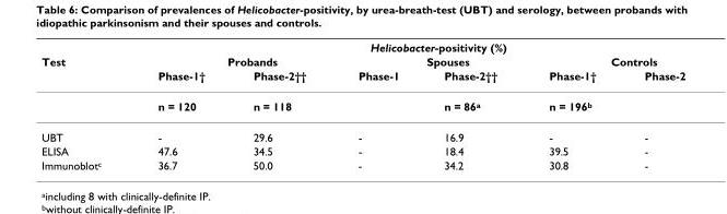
<table><thead><tr><td rowspan="3">Test</td><td colspan="6">Helicobacter-positivity (%)</td></tr><tr><td colspan="2">Probands</td><td colspan="2">Spouses</td><td colspan="2">Controls</td></tr><tr><td>Phase-1†</td><td>Phase-2††</td><td>Phase-1</td><td>Phase-2††</td><td>Phase-1†</td><td>Phase-2</td></tr></thead><tbody><tr><td></td><td>n = 120</td><td>n = 118</td><td></td><td>n = 86<sup>a</sup></td><td>n = 196<sup>b</sup></td><td></td></tr><tr><td>UBT</td><td>-</td><td>29.6</td><td>-</td><td>16.9</td><td>-</td><td>-</td></tr><tr><td>ELISA</td><td>47.6</td><td>34.5</td><td>-</td><td>18.4</td><td>39.5</td><td>-</td></tr><tr><td>Immunoblot<sup>c</sup></td><td>36.7</td><td>50.0</td><td>-</td><td>34.2</td><td>30.8</td><td>-</td></tr></tbody></table>